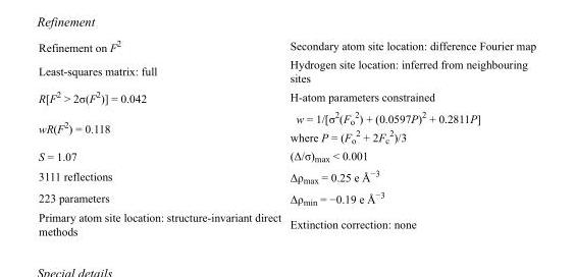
<table><tbody><tr><td>Refinement on F<sup>2</sup></td><td>Secondary atom site location: difference Fourier map</td></tr><tr><td>Least-squares matrix: full</td><td>Hydrogen site location: inferred from neighbouring sites</td></tr><tr><td>R[F<sup>2</sup> &gt; 2σ(F<sup>2</sup>)] = 0.042</td><td>H-atom parameters constrained</td></tr><tr><td>wR(F<sup>2</sup>) = 0.118</td><td>w = 1/[σ<sup>2</sup>(F<sub>o</sub> <sup>2</sup>) + (0.0597P)<sup>2</sup> + 0.2811P] where P = (F<sub>o</sub> <sup>2</sup> + 2F<sub>c</sub> <sup>2</sup>)/3</td></tr><tr><td>S = 1.07</td><td>(Δ/σ)<sub>max</sub> &lt; 0.001</td></tr><tr><td>3111 reflections</td><td>Δρ<sub>max</sub> = 0.25 e Å<sup>−3</sup></td></tr><tr><td>223 parameters</td><td>Δρ<sub>min</sub> = −0.19 e Å<sup>−3</sup></td></tr><tr><td>Primary atom site location: structure-invariant direct methods</td><td>Extinction correction: none</td></tr></tbody></table>